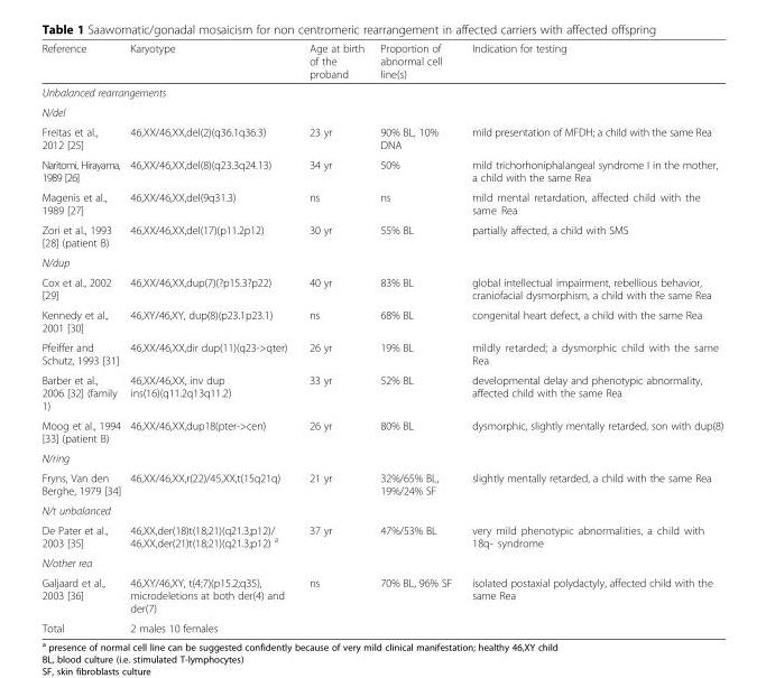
<table><thead><tr><td>Reference</td><td>Karyotype</td><td>Age at birth of the proband</td><td>Proportion of abnormal cell line(s)</td><td>Indication for testing</td></tr></thead><tbody><tr><td colspan="5">Unbalanced rearrangements</td></tr><tr><td colspan="5">N/del</td></tr><tr><td>Freitas et al., 2012 [25]</td><td>46,XX/46,XX,del(2)(q36.1q36.3)</td><td>23 yr</td><td>90% BL, 10% DNA</td><td>mild presentation of MFDH; a child with the same Rea</td></tr><tr><td>Naritomi, Hirayama, 1989 [26]</td><td>46,XX/46,XX,del(8)(q23.3q24.13)</td><td>34 yr</td><td>50%</td><td>mild trichorhoniphalangeal syndrome I in the mother, a child with the same Rea</td></tr><tr><td>Magenis et al., 1989 [27]</td><td>46,XX/46,XX,del(9q31.3)</td><td>ns</td><td>ns</td><td>mild mental retardation, affected child with the same Rea</td></tr><tr><td>Zori et al., 1993 [28] (patient B)</td><td>46,XX/46,XX,del(17)(p11.2p12)</td><td>30 yr</td><td>55% BL</td><td>partially affected, a child with SMS</td></tr><tr><td colspan="5">N/dup</td></tr><tr><td>Cox et al., 2002 [29]</td><td>46,XX/46,XX,dup(7)(?p15.3?p22)</td><td>40 yr</td><td>83% BL</td><td>global intellectual impairment, rebellious behavior, craniofacial dysmorphism, a child with the same Rea</td></tr><tr><td>Kennedy et al., 2001 [30]</td><td>46,XY/46,XY, dup(8)(p23.1p23.1)</td><td>ns</td><td>68% BL</td><td>congenital heart defect, a child with the same Rea</td></tr><tr><td>Pfeiffer and Schutz, 1993 [31]</td><td>46,XX/46,XX,dir dup(11)(q23-&gt;qter)</td><td>26 yr</td><td>19% BL</td><td>mildly retarded; a dysmorphic child with the same Rea</td></tr><tr><td>Barber et al., 2006 [32] (family 1)</td><td>46,XX/46,XX, inv dup ins(16)(q11.2q13q11.2)</td><td>33 yr</td><td>52% BL</td><td>developmental delay and phenotypic abnormality, affected child with the same Rea</td></tr><tr><td>Moog et al., 1994 [33] (patient B)</td><td>46,XX/46,XX,dup18(pter-&gt;cen)</td><td>26 yr</td><td>80% BL</td><td>dysmorphic, slightly mentally retarded, son with dup(8)</td></tr><tr><td colspan="5">N/ring</td></tr><tr><td>Fryns, Van den Berghe, 1979 [34]</td><td>46,XX/46,XX,r(22)/45,XX,t(15q21q)</td><td>21 yr</td><td>32%/65% BL, 19%/24% SF</td><td>slightly mentally retarded, a child with the same Rea</td></tr><tr><td colspan="5">N/t unbalanced</td></tr><tr><td>De Pater et al., 2003 [35]</td><td>46,XX,der(18)t(18;21)(q21.3;p12)/ 46,XX,der(21)t(18;21)(q21.3;p12) <sup>a</sup></td><td>37 yr</td><td>47%/53% BL</td><td>very mild phenotypic abnormalities, a child with 18q- syndrome</td></tr><tr><td colspan="5">N/other rea</td></tr><tr><td>Galjaard et al., 2003 [36]</td><td>46,XY/46,XY, t(4;7)(p15.2;q35), microdeletions at both der(4) and der(7)</td><td>ns</td><td>70% BL, 96% SF</td><td>isolated postaxial polydactyly, affected child with the same Rea</td></tr><tr><td>Total</td><td>2 males 10 females</td><td></td><td></td><td></td></tr></tbody></table>